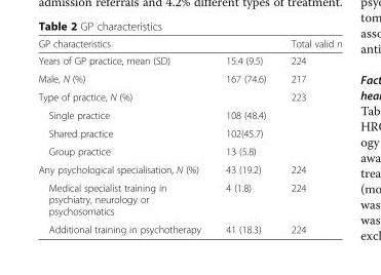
<table><thead><tr><td colspan="2">GP characteristics</td><td rowspan="2">Total valid n 224</td></tr><tr><td>Years of GP practice, mean (SD)</td><td>15.4 (9.5)</td></tr></thead><tbody><tr><td>Male, N (%)</td><td>167 (74.6)</td><td>217</td></tr><tr><td>Type of practice, N (%)</td><td></td><td>223</td></tr><tr><td>Single practice</td><td>108 (48.4)</td><td></td></tr><tr><td>Shared practice</td><td>102(45.7)</td><td></td></tr><tr><td>Group practice</td><td>13 (5.8)</td><td></td></tr><tr><td>Any psychological specialisation, N (%)</td><td>43 (19.2)</td><td>224</td></tr><tr><td>Medical specialist training in psychiatry, neurology or psychosomatics</td><td>4 (1.8)</td><td>224</td></tr><tr><td>Additional training in psychotherapy</td><td>41 (18.3)</td><td>224</td></tr></tbody></table>